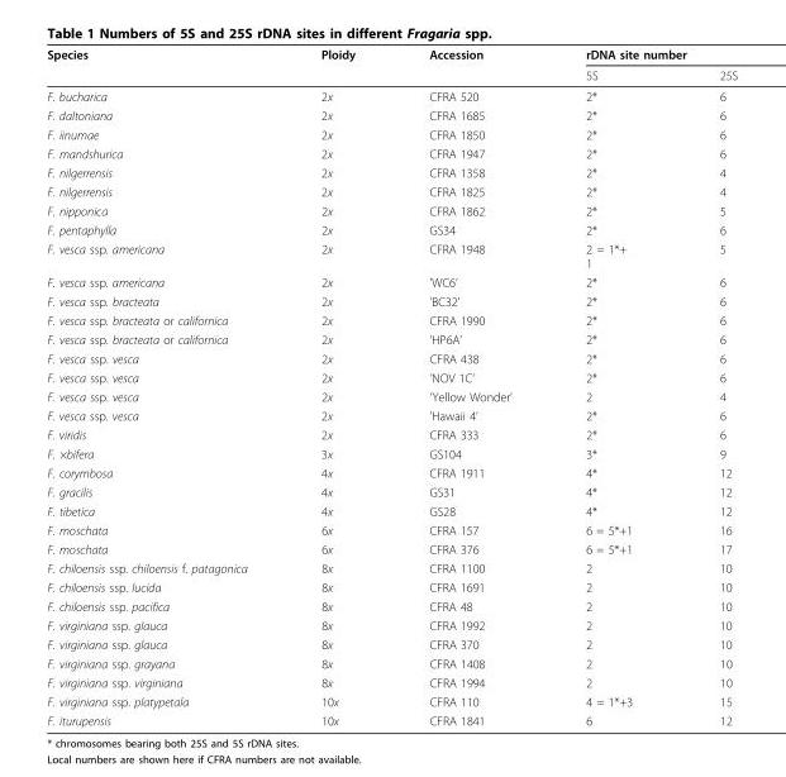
<table><thead><tr><td rowspan="2">Species</td><td rowspan="2">Ploidy</td><td rowspan="2">Accession</td><td colspan="2">rDNA site number</td></tr><tr><td>5S</td><td>25S</td></tr></thead><tbody><tr><td>F. bucharica</td><td>2x</td><td>CFRA 520</td><td>2*</td><td>6</td></tr><tr><td>F. daltoniana</td><td>2x</td><td>CFRA 1685</td><td>2*</td><td>6</td></tr><tr><td>F. iinumae</td><td>2x</td><td>CFRA 1850</td><td>2*</td><td>6</td></tr><tr><td>F. mandshurica</td><td>2x</td><td>CFRA 1947</td><td>2*</td><td>6</td></tr><tr><td>F. nilgerrensis</td><td>2x</td><td>CFRA 1358</td><td>2*</td><td>4</td></tr><tr><td>F. nilgerrensis</td><td>2x</td><td>CFRA 1825</td><td>2*</td><td>4</td></tr><tr><td>F. nipponica</td><td>2x</td><td>CFRA 1862</td><td>2*</td><td>5</td></tr><tr><td>F. pentaphylla</td><td>2x</td><td>GS34</td><td>2*</td><td>6</td></tr><tr><td>F. vesca ssp. americana</td><td>2x</td><td>CFRA 1948</td><td>2 = 1*+ 1</td><td>5</td></tr><tr><td>F. vesca ssp. americana</td><td>2x</td><td>’WC6’</td><td>2*</td><td>6</td></tr><tr><td>F. vesca ssp. bracteata</td><td>2x</td><td>’BC32’</td><td>2*</td><td>6</td></tr><tr><td>F. vesca ssp. bracteata or californica</td><td>2x</td><td>CFRA 1990</td><td>2*</td><td>6</td></tr><tr><td>F. vesca ssp. bracteata or californica</td><td>2x</td><td>’HP6A’</td><td>2*</td><td>6</td></tr><tr><td>F. vesca ssp. vesca</td><td>2x</td><td>CFRA 438</td><td>2*</td><td>6</td></tr><tr><td>F. vesca ssp. vesca</td><td>2x</td><td>’NOV 1C’</td><td>2*</td><td>6</td></tr><tr><td>F. vesca ssp. vesca</td><td>2x</td><td>’Yellow Wonder’</td><td>2</td><td>4</td></tr><tr><td>F. vesca ssp. vesca</td><td>2x</td><td>’Hawaii 4’</td><td>2*</td><td>6</td></tr><tr><td>F. viridis</td><td>2x</td><td>CFRA 333</td><td>2*</td><td>6</td></tr><tr><td>F. ×bifera</td><td>3x</td><td>GS104</td><td>3*</td><td>9</td></tr><tr><td>F. corymbosa</td><td>4x</td><td>CFRA 1911</td><td>4*</td><td>12</td></tr><tr><td>F. gracilis</td><td>4x</td><td>GS31</td><td>4*</td><td>12</td></tr><tr><td>F. tibetica</td><td>4x</td><td>GS28</td><td>4*</td><td>12</td></tr><tr><td>F. moschata</td><td>6x</td><td>CFRA 157</td><td>6 = 5*+1</td><td>16</td></tr><tr><td>F. moschata</td><td>6x</td><td>CFRA 376</td><td>6 = 5*+1</td><td>17</td></tr><tr><td>F. chiloensis ssp. chiloensis f. patagonica</td><td>8x</td><td>CFRA 1100</td><td>2</td><td>10</td></tr><tr><td>F. chiloensis ssp. lucida</td><td>8x</td><td>CFRA 1691</td><td>2</td><td>10</td></tr><tr><td>F. chiloensis ssp. pacifica</td><td>8x</td><td>CFRA 48</td><td>2</td><td>10</td></tr><tr><td>F. virginiana ssp. glauca</td><td>8x</td><td>CFRA 1992</td><td>2</td><td>10</td></tr><tr><td>F. virginiana ssp. glauca</td><td>8x</td><td>CFRA 370</td><td>2</td><td>10</td></tr><tr><td>F. virginiana ssp. grayana</td><td>8x</td><td>CFRA 1408</td><td>2</td><td>10</td></tr><tr><td>F. virginiana ssp. virginiana</td><td>8x</td><td>CFRA 1994</td><td>2</td><td>10</td></tr><tr><td>F. virginiana ssp. platypetala</td><td>10x</td><td>CFRA 110</td><td>4 = 1*+3</td><td>15</td></tr><tr><td>F. iturupensis</td><td>10x</td><td>CFRA 1841</td><td>6</td><td>12</td></tr></tbody></table>